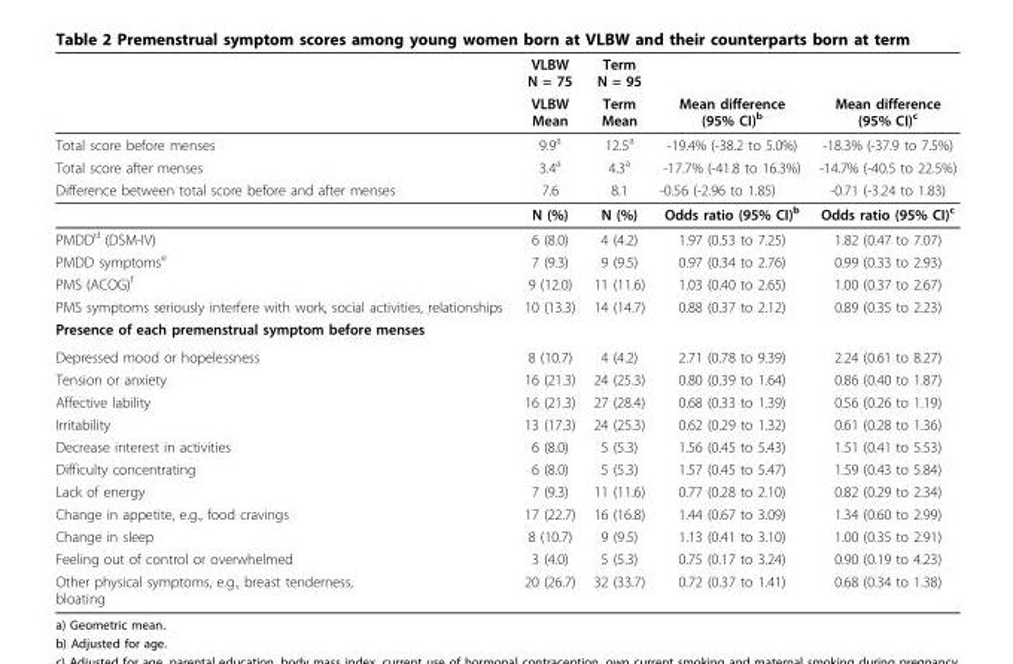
<table><thead><tr><td rowspan="2"></td><td rowspan="2">VLBW N = 75 VLBW Mean</td><td rowspan="2">Term N = 95 Term Mean</td><td rowspan="2">Mean difference (95% CI)<sup>b</sup></td><td rowspan="2">Mean difference (95% CI)<sup>c</sup></td></tr><tr></tr></thead><tbody><tr><td>Total score before menses</td><td>9.9<sup>a</sup></td><td>12.5<sup>a</sup></td><td>-19.4% (-38.2 to 5.0%)</td><td>-18.3% (-37.9 to 7.5%)</td></tr><tr><td>Total score after menses</td><td>3.4<sup>a</sup></td><td>4.3<sup>a</sup></td><td>-17.7% (-41.8 to 16.3%)</td><td>-14.7% (-40.5 to 22.5%)</td></tr><tr><td rowspan="2">Difference between total score before and after menses</td><td>7.6</td><td>8.1</td><td>-0.56 (-2.96 to 1.85)</td><td>-0.71 (-3.24 to 1.83)</td></tr><tr><td>N (%)</td><td>N (%)</td><td>Odds ratio (95% CI)<sup>b</sup></td><td>Odds ratio (95% CI)<sup>c</sup></td></tr><tr><td>PMDD<sup>d</sup> (DSM-IV)</td><td>6 (8.0)</td><td>4 (4.2)</td><td>1.97 (0.53 to 7.25)</td><td>1.82 (0.47 to 7.07)</td></tr><tr><td>PMDD symptoms<sup>e</sup></td><td>7 (9.3)</td><td>9 (9.5)</td><td>0.97 (0.34 to 2.76)</td><td>0.99 (0.33 to 2.93)</td></tr><tr><td>PMS (ACOG)<sup>f</sup></td><td>9 (12.0)</td><td>11 (11.6)</td><td>1.03 (0.40 to 2.65)</td><td>1.00 (0.37 to 2.67)</td></tr><tr><td>PMS symptoms seriously interfere with work, social activities, relationships</td><td>10 (13.3)</td><td>14 (14.7)</td><td>0.88 (0.37 to 2.12)</td><td>0.89 (0.35 to 2.23)</td></tr><tr><td colspan="5">Presence of each premenstrual symptom before menses</td></tr><tr><td>Depressed mood or hopelessness</td><td>8 (10.7)</td><td>4 (4.2)</td><td>2.71 (0.78 to 9.39)</td><td>2.24 (0.61 to 8.27)</td></tr><tr><td>Tension or anxiety</td><td>16 (21.3)</td><td>24 (25.3)</td><td>0.80 (0.39 to 1.64)</td><td>0.86 (0.40 to 1.87)</td></tr><tr><td>Affective lability</td><td>16 (21.3)</td><td>27 (28.4)</td><td>0.68 (0.33 to 1.39)</td><td>0.56 (0.26 to 1.19)</td></tr><tr><td>Irritability</td><td>13 (17.3)</td><td>24 (25.3)</td><td>0.62 (0.29 to 1.32)</td><td>0.61 (0.28 to 1.36)</td></tr><tr><td>Decrease interest in activities</td><td>6 (8.0)</td><td>5 (5.3)</td><td>1.56 (0.45 to 5.43)</td><td>1.51 (0.41 to 5.53)</td></tr><tr><td>Difficulty concentrating</td><td>6 (8.0)</td><td>5 (5.3)</td><td>1.57 (0.45 to 5.47)</td><td>1.59 (0.43 to 5.84)</td></tr><tr><td>Lack of energy</td><td>7 (9.3)</td><td>11 (11.6)</td><td>0.77 (0.28 to 2.10)</td><td>0.82 (0.29 to 2.34)</td></tr><tr><td>Change in appetite, e.g., food cravings</td><td>17 (22.7)</td><td>16 (16.8)</td><td>1.44 (0.67 to 3.09)</td><td>1.34 (0.60 to 2.99)</td></tr><tr><td>Change in sleep</td><td>8 (10.7)</td><td>9 (9.5)</td><td>1.13 (0.41 to 3.10)</td><td>1.00 (0.35 to 2.91)</td></tr><tr><td>Feeling out of control or overwhelmed</td><td>3 (4.0)</td><td>5 (5.3)</td><td>0.75 (0.17 to 3.24)</td><td>0.90 (0.19 to 4.23)</td></tr><tr><td>Other physical symptoms, e.g., breast tenderness, bloating</td><td>20 (26.7)</td><td>32 (33.7)</td><td>0.72 (0.37 to 1.41)</td><td>0.68 (0.34 to 1.38)</td></tr></tbody></table>